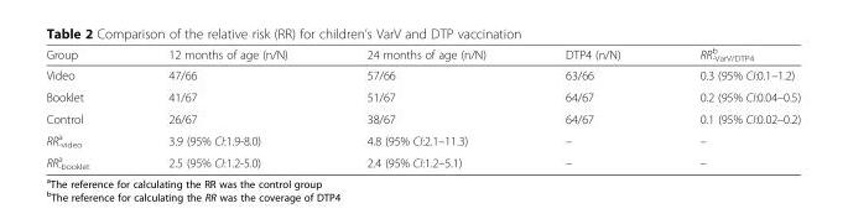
<table><thead><tr><td>Group</td><td>12 months of age (n/N)</td><td>24 months of age (n/N)</td><td>DTP4 (n/N)</td><td>RR<sub>-VarV/DTP4</sub> <sup>b</sup></td></tr></thead><tbody><tr><td>Video</td><td>47/66</td><td>57/66</td><td>63/66</td><td>0.3 (95% CI:0.1–1.2)</td></tr><tr><td>Booklet</td><td>41/67</td><td>51/67</td><td>64/67</td><td>0.2 (95% CI:0.04–0.5)</td></tr><tr><td>Control</td><td>26/67</td><td>38/67</td><td>64/67</td><td>0.1 (95% CI:0.02–0.2)</td></tr><tr><td>RR<sub>-video</sub> <sup>a</sup></td><td>3.9 (95% CI:1.9-8.0)</td><td>4.8 (95% CI:2.1–11.3)</td><td>–</td><td>–</td></tr><tr><td>RR<sub>-booklet</sub> <sup>a</sup></td><td>2.5 (95% CI:1.2-5.0)</td><td>2.4 (95% CI:1.2–5.1)</td><td>–</td><td>–</td></tr></tbody></table>